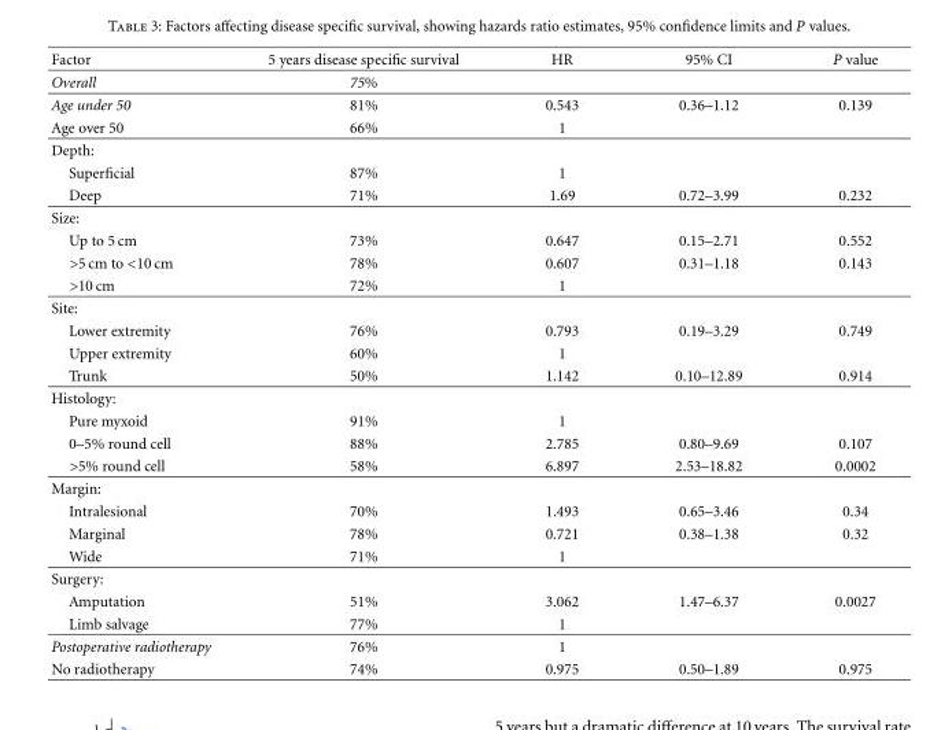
<table><thead><tr><td>Factor</td><td>5 years disease specific survival</td><td>HR</td><td>95% CI</td><td>P value</td></tr></thead><tbody><tr><td>Overall</td><td>75%</td><td></td><td></td><td></td></tr><tr><td>Age under 50</td><td>81%</td><td>0.543</td><td>0.36–1.12</td><td>0.139</td></tr><tr><td>Age over 50</td><td>66%</td><td>1</td><td></td><td></td></tr><tr><td colspan="5">Depth:</td></tr><tr><td>Superficial</td><td>87%</td><td>1</td><td></td><td></td></tr><tr><td>Deep</td><td>71%</td><td>1.69</td><td>0.72–3.99</td><td>0.232</td></tr><tr><td colspan="5">Size:</td></tr><tr><td>Up to 5 cm</td><td>73%</td><td>0.647</td><td>0.15–2.71</td><td>0.552</td></tr><tr><td>&gt;5 cm to &lt;10 cm</td><td>78%</td><td>0.607</td><td>0.31–1.18</td><td>0.143</td></tr><tr><td>&gt;10 cm</td><td>72%</td><td>1</td><td></td><td></td></tr><tr><td colspan="5">Site:</td></tr><tr><td>Lower extremity</td><td>76%</td><td>0.793</td><td>0.19–3.29</td><td>0.749</td></tr><tr><td>Upper extremity</td><td>60%</td><td>1</td><td></td><td></td></tr><tr><td>Trunk</td><td>50%</td><td>1.142</td><td>0.10–12.89</td><td>0.914</td></tr><tr><td colspan="5">Histology:</td></tr><tr><td>Pure myxoid</td><td>91%</td><td>1</td><td></td><td></td></tr><tr><td>0–5% round cell</td><td>88%</td><td>2.785</td><td>0.80–9.69</td><td>0.107</td></tr><tr><td>&gt;5% round cell</td><td>58%</td><td>6.897</td><td>2.53–18.82</td><td>0.0002</td></tr><tr><td colspan="5">Margin:</td></tr><tr><td>Intralesional</td><td>70%</td><td>1.493</td><td>0.65–3.46</td><td>0.34</td></tr><tr><td>Marginal</td><td>78%</td><td>0.721</td><td>0.38–1.38</td><td>0.32</td></tr><tr><td>Wide</td><td>71%</td><td>1</td><td></td><td></td></tr><tr><td colspan="5">Surgery:</td></tr><tr><td>Amputation</td><td>51%</td><td>3.062</td><td>1.47–6.37</td><td>0.0027</td></tr><tr><td>Limb salvage</td><td>77%</td><td>1</td><td></td><td></td></tr><tr><td>Postoperative radiotherapy</td><td>76%</td><td>1</td><td></td><td></td></tr><tr><td>No radiotherapy</td><td>74%</td><td>0.975</td><td>0.50–1.89</td><td>0.975</td></tr></tbody></table>